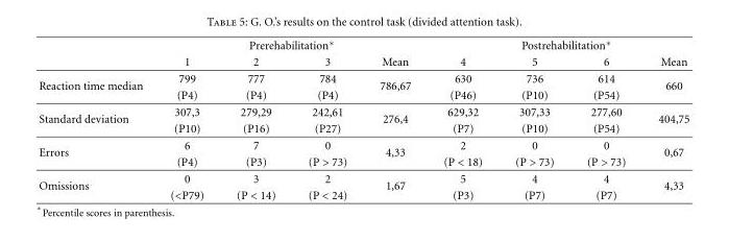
<table><thead><tr><td rowspan="2"></td><td colspan="4">Prerehabilitation∗</td><td colspan="4">Postrehabilitation∗</td></tr><tr><td>1</td><td>2</td><td>3</td><td>Mean</td><td>4</td><td>5</td><td>6</td><td>Mean</td></tr></thead><tbody><tr><td rowspan="2">Reaction time median</td><td>799</td><td>777</td><td>784</td><td rowspan="2">786,67</td><td>630</td><td>736</td><td>614</td><td rowspan="2">660</td></tr><tr><td>(P4)</td><td>(P4)</td><td>(P4)</td><td>(P46)</td><td>(P10)</td><td>(P54)</td></tr><tr><td rowspan="2">Standard deviation</td><td>307,3</td><td>279,29</td><td>242,61</td><td rowspan="2">276,4</td><td>629,32</td><td>307,33</td><td>277,60</td><td rowspan="2">404,75</td></tr><tr><td>(P10)</td><td>(P16)</td><td>(P27)</td><td>(P7)</td><td>(P10)</td><td>(P54)</td></tr><tr><td rowspan="2">Errors</td><td>6</td><td>7</td><td>0</td><td rowspan="2">4,33</td><td>2</td><td>0</td><td>0</td><td rowspan="2">0,67</td></tr><tr><td>(P4)</td><td>(P3)</td><td>(P &gt; 73)</td><td>(P &lt; 18)</td><td>(P &gt; 73)</td><td>(P &gt; 73)</td></tr><tr><td rowspan="2">Omissions</td><td>0</td><td>3</td><td>2</td><td rowspan="2">1,67</td><td>5</td><td>4</td><td>4</td><td rowspan="2">4,33</td></tr><tr><td>(&lt;P79)</td><td>(P &lt; 14)</td><td>(P &lt; 24)</td><td>(P3)</td><td>(P7)</td><td>(P7)</td></tr></tbody></table>